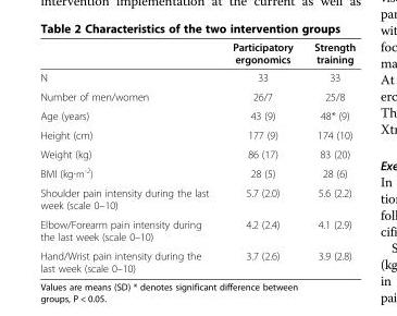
<table><thead><tr><td></td><td>Participatory ergonomics</td><td>Strength training</td></tr></thead><tbody><tr><td>N</td><td>33</td><td>33</td></tr><tr><td>Number of men/women</td><td>26/7</td><td>25/8</td></tr><tr><td>Age (years)</td><td>43 (9)</td><td>48* (9)</td></tr><tr><td>Height (cm)</td><td>177 (9)</td><td>174 (10)</td></tr><tr><td>Weight (kg)</td><td>86 (17)</td><td>83 (20)</td></tr><tr><td>BMI (kg∙m<sup>-2</sup>)</td><td>28 (5)</td><td>28 (6)</td></tr><tr><td>Shoulder pain intensity during the last week (scale 0–10)</td><td>5.7 (2.0)</td><td>5.6 (2.2)</td></tr><tr><td>Elbow/Forearm pain intensity during the last week (scale 0–10)</td><td>4.2 (2.4)</td><td>4.1 (2.9)</td></tr><tr><td>Hand/Wrist pain intensity during the last week (scale 0–10)</td><td>3.7 (2.6)</td><td>3.9 (2.8)</td></tr></tbody></table>